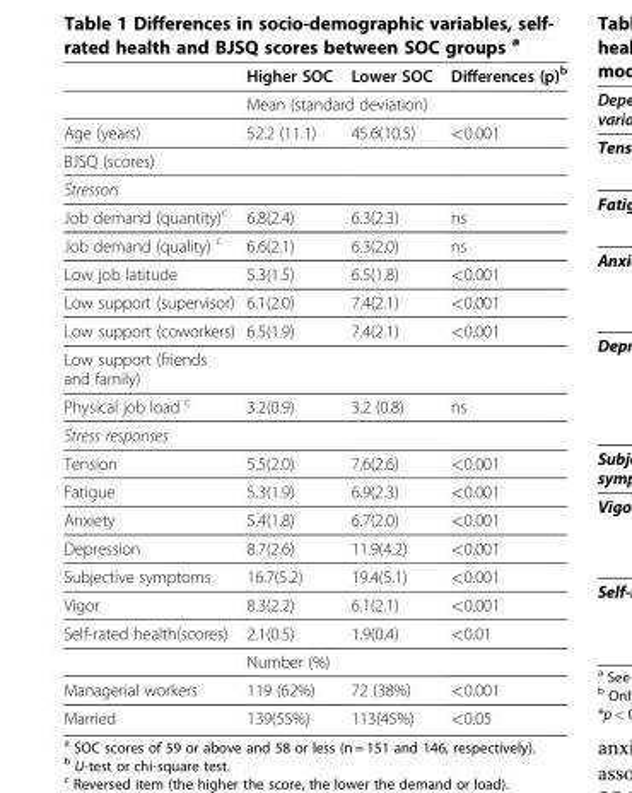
<table><thead><tr><td></td><td>Higher SOC</td><td>Lower SOC</td><td>Differences (p)<sup>b</sup></td></tr></thead><tbody><tr><td></td><td colspan="2">Mean (standard deviation)</td><td></td></tr><tr><td>Age (years)</td><td>52.2 (11.1)</td><td>45.6(10.5)</td><td>&lt;0.001</td></tr><tr><td colspan="4">BJSQ (scores)</td></tr><tr><td colspan="4">Stressors</td></tr><tr><td>Job demand (quantity)<sup>c</sup></td><td>6.8(2.4)</td><td>6.3(2.3)</td><td>ns</td></tr><tr><td>Job demand (quality) <sup>c</sup></td><td>6.6(2.1)</td><td>6.3(2.0)</td><td>ns</td></tr><tr><td>Low job latitude</td><td>5.3(1.5)</td><td>6.5(1.8)</td><td>&lt;0.001</td></tr><tr><td>Low support (supervisor)</td><td>6.1(2.0)</td><td>7.4(2.1)</td><td>&lt;0.001</td></tr><tr><td>Low support (coworkers)</td><td>6.5(1.9)</td><td>7.4(2.1)</td><td>&lt;0.001</td></tr><tr><td colspan="4">Low support (friends and family)</td></tr><tr><td>Physical job load <sup>c</sup></td><td>3.2(0.9)</td><td>3.2 (0.8)</td><td>ns</td></tr><tr><td colspan="4">Stress responses</td></tr><tr><td>Tension</td><td>5.5(2.0)</td><td>7.6(2.6)</td><td>&lt;0.001</td></tr><tr><td>Fatigue</td><td>5.3(1.9)</td><td>6.9(2.3)</td><td>&lt;0.001</td></tr><tr><td>Anxiety</td><td>5.4(1.8)</td><td>6.7(2.0)</td><td>&lt;0.001</td></tr><tr><td>Depression</td><td>8.7(2.6)</td><td>11.9(4.2)</td><td>&lt;0.001</td></tr><tr><td>Subjective symptoms</td><td>16.7(5.2)</td><td>19.4(5.1)</td><td>&lt;0.001</td></tr><tr><td>Vigor</td><td>8.3(2.2)</td><td>6.1(2.1)</td><td>&lt;0.001</td></tr><tr><td rowspan="2">Self-rated health(scores)</td><td>2.1(0.5)</td><td>1.9(0.4)</td><td>&lt;0.01</td></tr><tr><td colspan="2">Number (%)</td><td></td></tr><tr><td>Managerial workers</td><td>119 (62%)</td><td>72 (38%)</td><td>&lt;0.001</td></tr><tr><td>Married</td><td>139(55%)</td><td>113(45%)</td><td>&lt;0.05</td></tr></tbody></table>